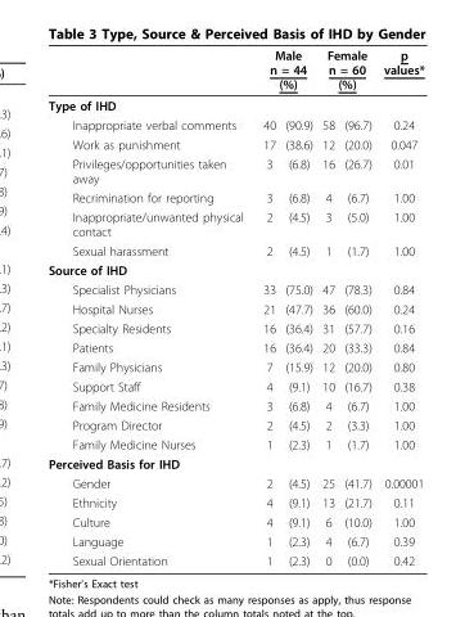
<table><thead><tr><td rowspan="2">Type of IHD</td><td colspan="2">Male n = 44 (%)</td><td colspan="2">Female n = 60 (%)</td><td rowspan="2">p values*</td></tr><tr><td></td><td></td><td></td><td></td></tr></thead><tbody><tr><td>Inappropriate verbal comments</td><td>40</td><td>(90.9)</td><td>58</td><td>(96.7)</td><td>0.24</td></tr><tr><td>Work as punishment</td><td>17</td><td>(38.6)</td><td>12</td><td>(20.0)</td><td>0.047</td></tr><tr><td>Privileges/opportunities taken away</td><td>3</td><td>(6.8)</td><td>16</td><td>(26.7)</td><td>0.01</td></tr><tr><td>Recrimination for reporting</td><td>3</td><td>(6.8)</td><td>4</td><td>(6.7)</td><td>1.00</td></tr><tr><td>Inappropriate/unwanted physical contact</td><td>2</td><td>(4.5)</td><td>3</td><td>(5.0)</td><td>1.00</td></tr><tr><td>Sexual harassment</td><td>2</td><td>(4.5)</td><td>1</td><td>(1.7)</td><td>1.00</td></tr><tr><td colspan="6">Source of IHD</td></tr><tr><td>Specialist Physicians</td><td>33</td><td>(75.0)</td><td>47</td><td>(78.3)</td><td>0.84</td></tr><tr><td>Hospital Nurses</td><td>21</td><td>(47.7)</td><td>36</td><td>(60.0)</td><td>0.24</td></tr><tr><td>Specialty Residents</td><td>16</td><td>(36.4)</td><td>31</td><td>(57.7)</td><td>0.16</td></tr><tr><td>Patients</td><td>16</td><td>(36.4)</td><td>20</td><td>(33.3)</td><td>0.84</td></tr><tr><td>Family Physicians</td><td>7</td><td>(15.9)</td><td>12</td><td>(20.0)</td><td>0.80</td></tr><tr><td>Support Staff</td><td>4</td><td>(9.1)</td><td>10</td><td>(16.7)</td><td>0.38</td></tr><tr><td>Family Medicine Residents</td><td>3</td><td>(6.8)</td><td>4</td><td>(6.7)</td><td>1.00</td></tr><tr><td>Program Director</td><td>2</td><td>(4.5)</td><td>2</td><td>(3.3)</td><td>1.00</td></tr><tr><td>Family Medicine Nurses</td><td>1</td><td>(2.3)</td><td>1</td><td>(1.7)</td><td>1.00</td></tr><tr><td colspan="6">Perceived Basis for IHD</td></tr><tr><td>Gender</td><td>2</td><td>(4.5)</td><td>25</td><td>(41.7)</td><td>0.00001</td></tr><tr><td>Ethnicity</td><td>4</td><td>(9.1)</td><td>13</td><td>(21.7)</td><td>0.11</td></tr><tr><td>Culture</td><td>4</td><td>(9.1)</td><td>6</td><td>(10.0)</td><td>1.00</td></tr><tr><td>Language</td><td>1</td><td>(2.3)</td><td>4</td><td>(6.7)</td><td>0.39</td></tr><tr><td>Sexual Orientation</td><td>1</td><td>(2.3)</td><td>0</td><td>(0.0)</td><td>0.42</td></tr></tbody></table>